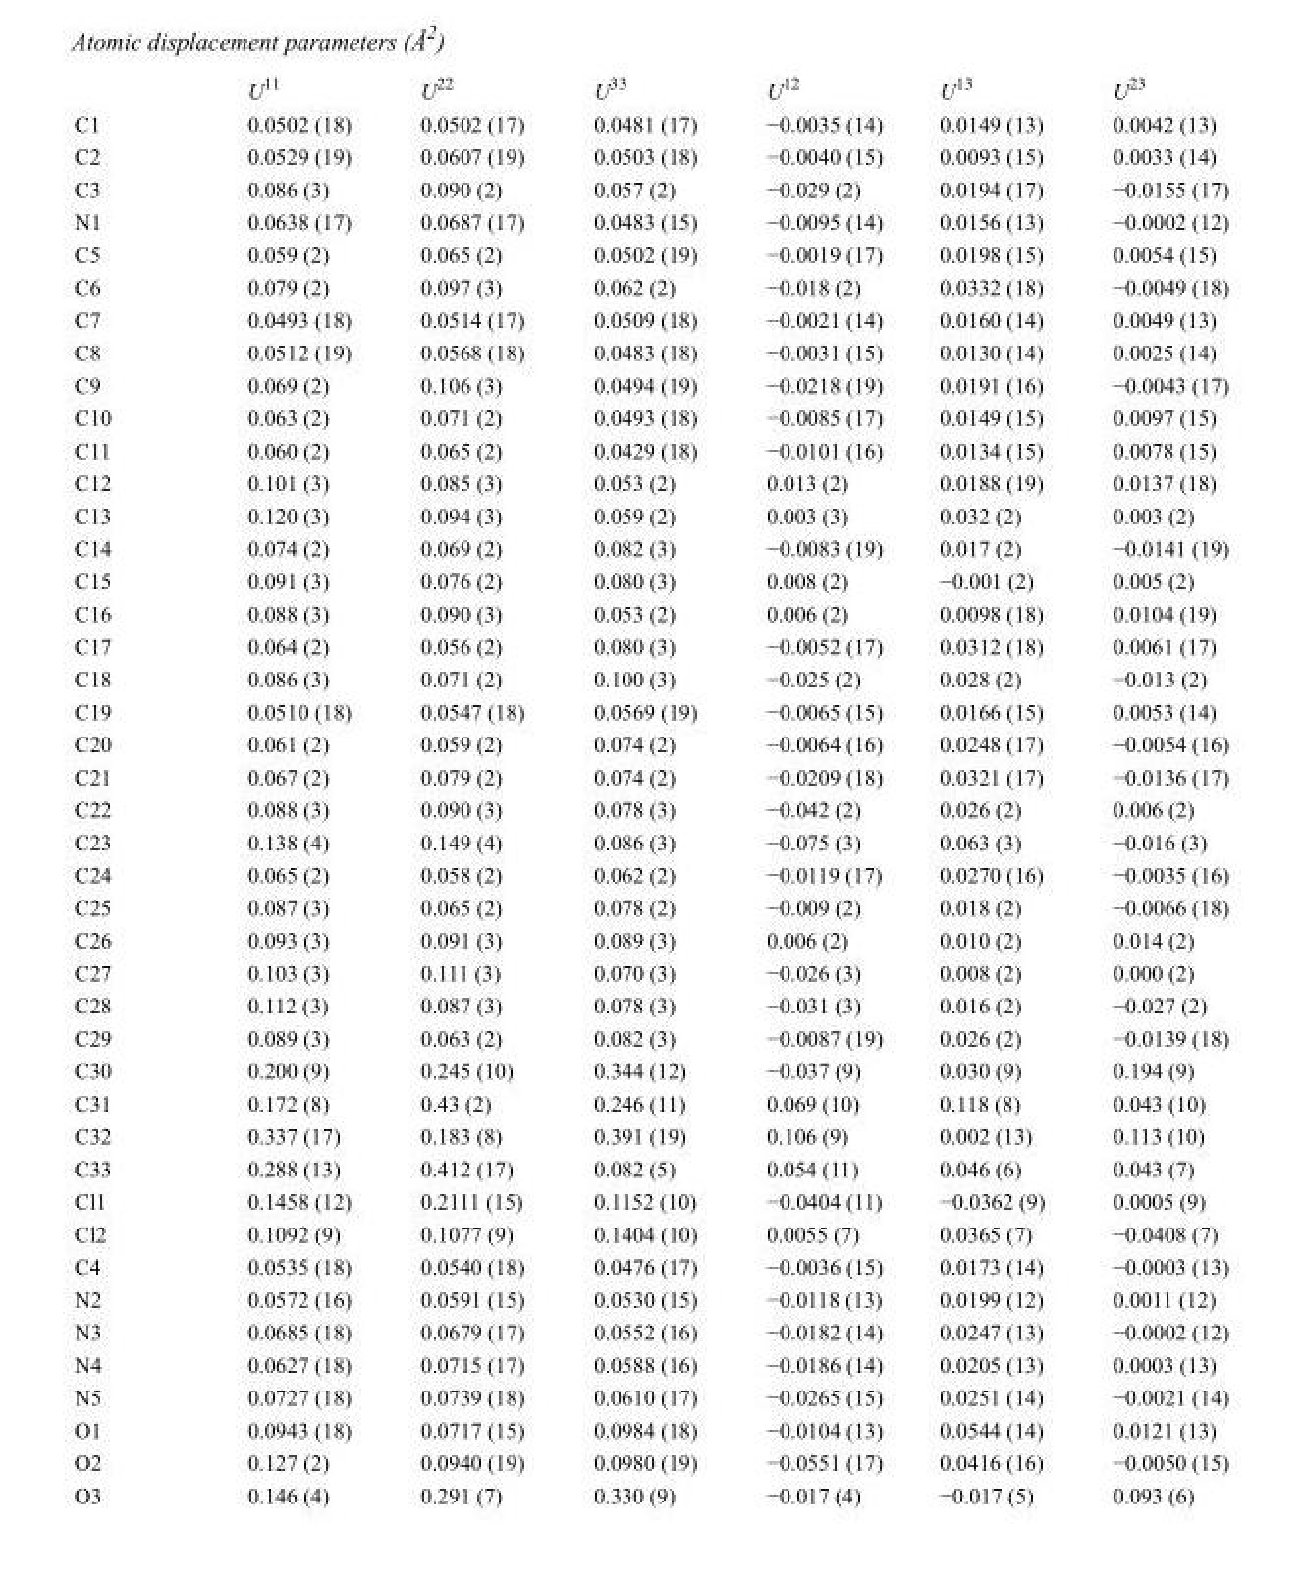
<table><thead><tr><td></td><td>U<sup>11</sup></td><td>U<sup>22</sup></td><td>U<sup>33</sup></td><td>U<sup>12</sup></td><td>U<sup>13</sup></td><td>U<sup>23</sup></td></tr></thead><tbody><tr><td>C1</td><td>0.0502 (18)</td><td>0.0502 (17)</td><td>0.0481 (17)</td><td>−0.0035 (14)</td><td>0.0149 (13)</td><td>0.0042 (13)</td></tr><tr><td>C2</td><td>0.0529 (19)</td><td>0.0607 (19)</td><td>0.0503 (18)</td><td>−0.0040 (15)</td><td>0.0093 (15)</td><td>0.0033 (14)</td></tr><tr><td>C3</td><td>0.086 (3)</td><td>0.090 (2)</td><td>0.057 (2)</td><td>−0.029 (2)</td><td>0.0194 (17)</td><td>−0.0155 (17)</td></tr><tr><td>N1</td><td>0.0638 (17)</td><td>0.0687 (17)</td><td>0.0483 (15)</td><td>−0.0095 (14)</td><td>0.0156 (13)</td><td>−0.0002 (12)</td></tr><tr><td>C5</td><td>0.059 (2)</td><td>0.065 (2)</td><td>0.0502 (19)</td><td>−0.0019 (17)</td><td>0.0198 (15)</td><td>0.0054 (15)</td></tr><tr><td>C6</td><td>0.079 (2)</td><td>0.097 (3)</td><td>0.062 (2)</td><td>−0.018 (2)</td><td>0.0332 (18)</td><td>−0.0049 (18)</td></tr><tr><td>C7</td><td>0.0493 (18)</td><td>0.0514 (17)</td><td>0.0509 (18)</td><td>−0.0021 (14)</td><td>0.0160 (14)</td><td>0.0049 (13)</td></tr><tr><td>C8</td><td>0.0512 (19)</td><td>0.0568 (18)</td><td>0.0483 (18)</td><td>−0.0031 (15)</td><td>0.0130 (14)</td><td>0.0025 (14)</td></tr><tr><td>C9</td><td>0.069 (2)</td><td>0.106 (3)</td><td>0.0494 (19)</td><td>−0.0218 (19)</td><td>0.0191 (16)</td><td>−0.0043 (17)</td></tr><tr><td>C10</td><td>0.063 (2)</td><td>0.071 (2)</td><td>0.0493 (18)</td><td>−0.0085 (17)</td><td>0.0149 (15)</td><td>0.0097 (15)</td></tr><tr><td>C11</td><td>0.060 (2)</td><td>0.065 (2)</td><td>0.0429 (18)</td><td>−0.0101 (16)</td><td>0.0134 (15)</td><td>0.0078 (15)</td></tr><tr><td>C12</td><td>0.101 (3)</td><td>0.085 (3)</td><td>0.053 (2)</td><td>0.013 (2)</td><td>0.0188 (19)</td><td>0.0137 (18)</td></tr><tr><td>C13</td><td>0.120 (3)</td><td>0.094 (3)</td><td>0.059 (2)</td><td>0.003 (3)</td><td>0.032 (2)</td><td>0.003 (2)</td></tr><tr><td>C14</td><td>0.074 (2)</td><td>0.069 (2)</td><td>0.082 (3)</td><td>−0.0083 (19)</td><td>0.017 (2)</td><td>−0.0141 (19)</td></tr><tr><td>C15</td><td>0.091 (3)</td><td>0.076 (2)</td><td>0.080 (3)</td><td>0.008 (2)</td><td>−0.001 (2)</td><td>0.005 (2)</td></tr><tr><td>C16</td><td>0.088 (3)</td><td>0.090 (3)</td><td>0.053 (2)</td><td>0.006 (2)</td><td>0.0098 (18)</td><td>0.0104 (19)</td></tr><tr><td>C17</td><td>0.064 (2)</td><td>0.056 (2)</td><td>0.080 (3)</td><td>−0.0052 (17)</td><td>0.0312 (18)</td><td>0.0061 (17)</td></tr><tr><td>C18</td><td>0.086 (3)</td><td>0.071 (2)</td><td>0.100 (3)</td><td>−0.025 (2)</td><td>0.028 (2)</td><td>−0.013 (2)</td></tr><tr><td>C19</td><td>0.0510 (18)</td><td>0.0547 (18)</td><td>0.0569 (19)</td><td>−0.0065 (15)</td><td>0.0166 (15)</td><td>0.0053 (14)</td></tr><tr><td>C20</td><td>0.061 (2)</td><td>0.059 (2)</td><td>0.074 (2)</td><td>−0.0064 (16)</td><td>0.0248 (17)</td><td>−0.0054 (16)</td></tr><tr><td>C21</td><td>0.067 (2)</td><td>0.079 (2)</td><td>0.074 (2)</td><td>−0.0209 (18)</td><td>0.0321 (17)</td><td>−0.0136 (17)</td></tr><tr><td>C22</td><td>0.088 (3)</td><td>0.090 (3)</td><td>0.078 (3)</td><td>−0.042 (2)</td><td>0.026 (2)</td><td>0.006 (2)</td></tr><tr><td>C23</td><td>0.138 (4)</td><td>0.149 (4)</td><td>0.086 (3)</td><td>−0.075 (3)</td><td>0.063 (3)</td><td>−0.016 (3)</td></tr><tr><td>C24</td><td>0.065 (2)</td><td>0.058 (2)</td><td>0.062 (2)</td><td>−0.0119 (17)</td><td>0.0270 (16)</td><td>−0.0035 (16)</td></tr><tr><td>C25</td><td>0.087 (3)</td><td>0.065 (2)</td><td>0.078 (2)</td><td>−0.009 (2)</td><td>0.018 (2)</td><td>−0.0066 (18)</td></tr><tr><td>C26</td><td>0.093 (3)</td><td>0.091 (3)</td><td>0.089 (3)</td><td>0.006 (2)</td><td>0.010 (2)</td><td>0.014 (2)</td></tr><tr><td>C27</td><td>0.103 (3)</td><td>0.111 (3)</td><td>0.070 (3)</td><td>−0.026 (3)</td><td>0.008 (2)</td><td>0.000 (2)</td></tr><tr><td>C28</td><td>0.112 (3)</td><td>0.087 (3)</td><td>0.078 (3)</td><td>−0.031 (3)</td><td>0.016 (2)</td><td>−0.027 (2)</td></tr><tr><td>C29</td><td>0.089 (3)</td><td>0.063 (2)</td><td>0.082 (3)</td><td>−0.0087 (19)</td><td>0.026 (2)</td><td>−0.0139 (18)</td></tr><tr><td>C30</td><td>0.200 (9)</td><td>0.245 (10)</td><td>0.344 (12)</td><td>−0.037 (9)</td><td>0.030 (9)</td><td>0.194 (9)</td></tr><tr><td>C31</td><td>0.172 (8)</td><td>0.43 (2)</td><td>0.246 (11)</td><td>0.069 (10)</td><td>0.118 (8)</td><td>0.043 (10)</td></tr><tr><td>C32</td><td>0.337 (17)</td><td>0.183 (8)</td><td>0.391 (19)</td><td>0.106 (9)</td><td>0.002 (13)</td><td>0.113 (10)</td></tr><tr><td>C33</td><td>0.288 (13)</td><td>0.412 (17)</td><td>0.082 (5)</td><td>0.054 (11)</td><td>0.046 (6)</td><td>0.043 (7)</td></tr><tr><td>Cl1</td><td>0.1458 (12)</td><td>0.2111 (15)</td><td>0.1152 (10)</td><td>−0.0404 (11)</td><td>−0.0362 (9)</td><td>0.0005 (9)</td></tr><tr><td>Cl2</td><td>0.1092 (9)</td><td>0.1077 (9)</td><td>0.1404 (10)</td><td>0.0055 (7)</td><td>0.0365 (7)</td><td>−0.0408 (7)</td></tr><tr><td>C4</td><td>0.0535 (18)</td><td>0.0540 (18)</td><td>0.0476 (17)</td><td>−0.0036 (15)</td><td>0.0173 (14)</td><td>−0.0003 (13)</td></tr><tr><td>N2</td><td>0.0572 (16)</td><td>0.0591 (15)</td><td>0.0530 (15)</td><td>−0.0118 (13)</td><td>0.0199 (12)</td><td>0.0011 (12)</td></tr><tr><td>N3</td><td>0.0685 (18)</td><td>0.0679 (17)</td><td>0.0552 (16)</td><td>−0.0182 (14)</td><td>0.0247 (13)</td><td>−0.0002 (12)</td></tr><tr><td>N4</td><td>0.0627 (18)</td><td>0.0715 (17)</td><td>0.0588 (16)</td><td>−0.0186 (14)</td><td>0.0205 (13)</td><td>0.0003 (13)</td></tr><tr><td>N5</td><td>0.0727 (18)</td><td>0.0739 (18)</td><td>0.0610 (17)</td><td>−0.0265 (15)</td><td>0.0251 (14)</td><td>−0.0021 (14)</td></tr><tr><td>O1</td><td>0.0943 (18)</td><td>0.0717 (15)</td><td>0.0984 (18)</td><td>−0.0104 (13)</td><td>0.0544 (14)</td><td>0.0121 (13)</td></tr><tr><td>O2</td><td>0.127 (2)</td><td>0.0940 (19)</td><td>0.0980 (19)</td><td>−0.0551 (17)</td><td>0.0416 (16)</td><td>−0.0050 (15)</td></tr><tr><td>O3</td><td>0.146 (4)</td><td>0.291 (7)</td><td>0.330 (9)</td><td>−0.017 (4)</td><td>−0.017 (5)</td><td>0.093 (6)</td></tr></tbody></table>